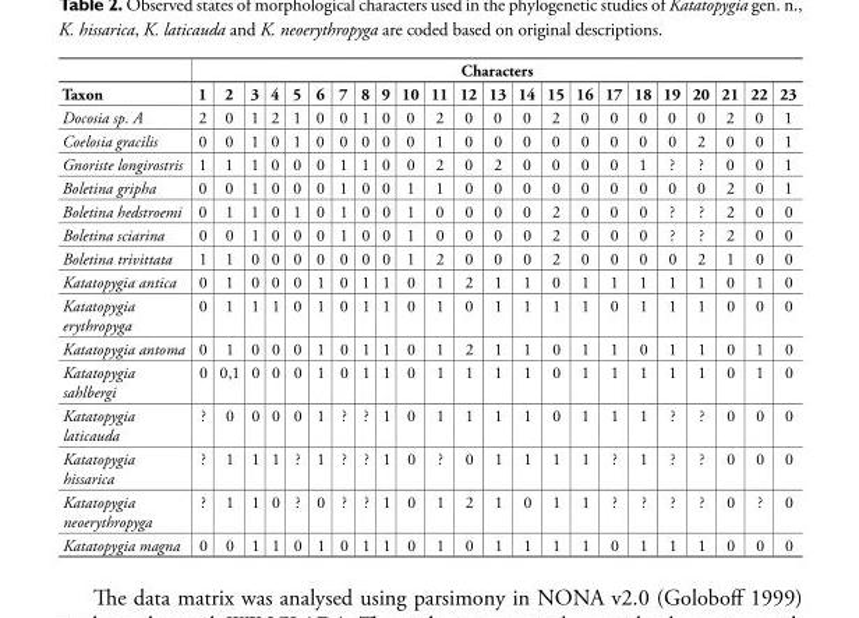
<table><thead><tr><td rowspan="2">Taxon</td><td colspan="23">Characters</td></tr><tr><td>1</td><td>2</td><td>3</td><td>4</td><td>5</td><td>6</td><td>7</td><td>8</td><td>9</td><td>10</td><td>11</td><td>12</td><td>13</td><td>14</td><td>15</td><td>16</td><td>17</td><td>18</td><td>19</td><td>20</td><td>21</td><td>22</td><td>23</td></tr></thead><tbody><tr><td>Docosia sp. A</td><td>2</td><td>0</td><td>1</td><td>2</td><td>1</td><td>0</td><td>0</td><td>1</td><td>0</td><td>0</td><td>2</td><td>0</td><td>0</td><td>0</td><td>2</td><td>0</td><td>0</td><td>0</td><td>0</td><td>0</td><td>2</td><td>0</td><td>1</td></tr><tr><td>Coelosia gracilis</td><td>0</td><td>0</td><td>1</td><td>0</td><td>1</td><td>0</td><td>0</td><td>0</td><td>0</td><td>0</td><td>1</td><td>0</td><td>0</td><td>0</td><td>0</td><td>0</td><td>0</td><td>0</td><td>0</td><td>2</td><td>0</td><td>0</td><td>1</td></tr><tr><td>Gnoriste longirostris</td><td>1</td><td>1</td><td>1</td><td>0</td><td>0</td><td>0</td><td>1</td><td>1</td><td>0</td><td>0</td><td>2</td><td>0</td><td>2</td><td>0</td><td>0</td><td>0</td><td>0</td><td>1</td><td>?</td><td>?</td><td>0</td><td>0</td><td>1</td></tr><tr><td>Boletina gripha</td><td>0</td><td>0</td><td>1</td><td>0</td><td>0</td><td>0</td><td>1</td><td>0</td><td>0</td><td>1</td><td>1</td><td>0</td><td>0</td><td>0</td><td>0</td><td>0</td><td>0</td><td>0</td><td>0</td><td>0</td><td>2</td><td>0</td><td>1</td></tr><tr><td>Boletina hedstroemi</td><td>0</td><td>1</td><td>1</td><td>0</td><td>1</td><td>0</td><td>1</td><td>0</td><td>0</td><td>1</td><td>0</td><td>0</td><td>0</td><td>0</td><td>2</td><td>0</td><td>0</td><td>0</td><td>?</td><td>?</td><td>2</td><td>0</td><td>0</td></tr><tr><td>Boletina sciarina</td><td>0</td><td>0</td><td>1</td><td>0</td><td>0</td><td>0</td><td>1</td><td>0</td><td>0</td><td>1</td><td>0</td><td>0</td><td>0</td><td>0</td><td>2</td><td>0</td><td>0</td><td>0</td><td>?</td><td>?</td><td>2</td><td>0</td><td>0</td></tr><tr><td>Boletina trivittata</td><td>1</td><td>1</td><td>0</td><td>0</td><td>0</td><td>0</td><td>0</td><td>0</td><td>0</td><td>1</td><td>2</td><td>0</td><td>0</td><td>0</td><td>2</td><td>0</td><td>0</td><td>0</td><td>0</td><td>2</td><td>1</td><td>0</td><td>0</td></tr><tr><td>Katatopygia antica</td><td>0</td><td>1</td><td>0</td><td>0</td><td>0</td><td>1</td><td>0</td><td>1</td><td>1</td><td>0</td><td>1</td><td>2</td><td>1</td><td>1</td><td>0</td><td>1</td><td>1</td><td>1</td><td>1</td><td>1</td><td>0</td><td>1</td><td>0</td></tr><tr><td>Katatopygia erythropyga</td><td>0</td><td>1</td><td>1</td><td>1</td><td>0</td><td>1</td><td>0</td><td>1</td><td>1</td><td>0</td><td>1</td><td>0</td><td>1</td><td>1</td><td>1</td><td>1</td><td>0</td><td>1</td><td>1</td><td>1</td><td>0</td><td>0</td><td>0</td></tr><tr><td>Katatopygia antoma</td><td>0</td><td>1</td><td>0</td><td>0</td><td>0</td><td>1</td><td>0</td><td>1</td><td>1</td><td>0</td><td>1</td><td>2</td><td>1</td><td>1</td><td>0</td><td>1</td><td>1</td><td>0</td><td>1</td><td>1</td><td>0</td><td>1</td><td>0</td></tr><tr><td>Katatopygia sahlbergi</td><td>0</td><td>0,1</td><td>0</td><td>0</td><td>0</td><td>1</td><td>0</td><td>1</td><td>1</td><td>0</td><td>1</td><td>1</td><td>1</td><td>1</td><td>0</td><td>1</td><td>1</td><td>1</td><td>1</td><td>1</td><td>0</td><td>1</td><td>0</td></tr><tr><td>Katatopygia laticauda</td><td>?</td><td>0</td><td>0</td><td>0</td><td>0</td><td>1</td><td>?</td><td>?</td><td>1</td><td>0</td><td>1</td><td>1</td><td>1</td><td>1</td><td>0</td><td>1</td><td>1</td><td>1</td><td>?</td><td>?</td><td>0</td><td>0</td><td>0</td></tr><tr><td>Katatopygia hissarica</td><td>?</td><td>1</td><td>1</td><td>1</td><td>?</td><td>1</td><td>?</td><td>?</td><td>1</td><td>0</td><td>?</td><td>0</td><td>1</td><td>1</td><td>1</td><td>1</td><td>?</td><td>1</td><td>?</td><td>?</td><td>0</td><td>0</td><td>0</td></tr><tr><td>Katatopygia neoerythropyga</td><td>?</td><td>1</td><td>1</td><td>0</td><td>?</td><td>0</td><td>?</td><td>?</td><td>1</td><td>0</td><td>1</td><td>2</td><td>1</td><td>0</td><td>1</td><td>1</td><td>?</td><td>?</td><td>?</td><td>?</td><td>0</td><td>?</td><td>0</td></tr><tr><td>Katatopygia magna</td><td>0</td><td>0</td><td>1</td><td>1</td><td>0</td><td>1</td><td>0</td><td>1</td><td>1</td><td>0</td><td>1</td><td>0</td><td>1</td><td>1</td><td>1</td><td>1</td><td>0</td><td>1</td><td>1</td><td>1</td><td>0</td><td>0</td><td>0</td></tr></tbody></table>